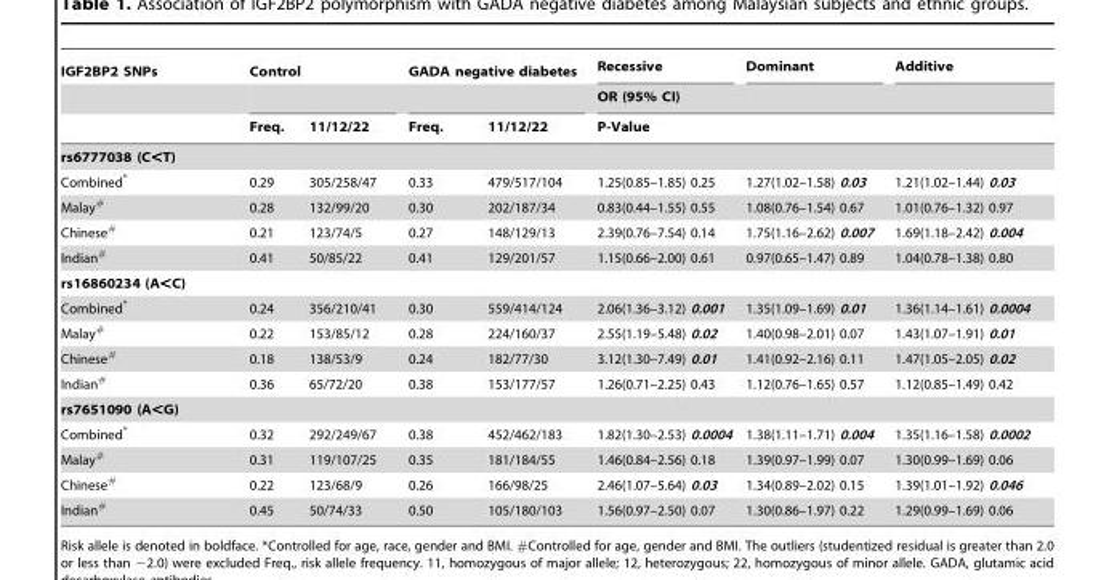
<table><thead><tr><td rowspan="3">IGF2BP2 SNPs</td><td colspan="2">Control</td><td colspan="2">GADA negative diabetes</td><td>Recessive</td><td>Dominant</td><td>Additive</td></tr><tr><td rowspan="2">Freq.</td><td rowspan="2">11/12/22</td><td rowspan="2">Freq.</td><td rowspan="2">11/12/22</td><td rowspan="2" colspan="3">OR (95% CI) P-Value</td></tr><tr></tr></thead><tbody><tr><td colspan="8">rs6777038 (C&lt;T)</td></tr><tr><td>Combined*</td><td>0.29</td><td>305/258/47</td><td>0.33</td><td>479/517/104</td><td>1.25(0.85–1.85) 0.25</td><td>1.27(1.02–1.58) 0.03</td><td>1.21(1.02–1.44) 0.03</td></tr><tr><td>Malay<sup>#</sup></td><td>0.28</td><td>132/99/20</td><td>0.30</td><td>202/187/34</td><td>0.83(0.44–1.55) 0.55</td><td>1.08(0.76–1.54) 0.67</td><td>1.01(0.76–1.32) 0.97</td></tr><tr><td>Chinese<sup>#</sup></td><td>0.21</td><td>123/74/5</td><td>0.27</td><td>148/129/13</td><td>2.39(0.76–7.54) 0.14</td><td>1.75(1.16–2.62) 0.007</td><td>1.69(1.18–2.42) 0.004</td></tr><tr><td>Indian<sup>#</sup></td><td>0.41</td><td>50/85/22</td><td>0.41</td><td>129/201/57</td><td>1.15(0.66–2.00) 0.61</td><td>0.97(0.65–1.47) 0.89</td><td>1.04(0.78–1.38) 0.80</td></tr><tr><td colspan="8">rs16860234 (A&lt;C)</td></tr><tr><td>Combined*</td><td>0.24</td><td>356/210/41</td><td>0.30</td><td>559/414/124</td><td>2.06(1.36–3.12) 0.001</td><td>1.35(1.09–1.69) 0.01</td><td>1.36(1.14–1.61) 0.0004</td></tr><tr><td>Malay<sup>#</sup></td><td>0.22</td><td>153/85/12</td><td>0.28</td><td>224/160/37</td><td>2.55(1.19–5.48) 0.02</td><td>1.40(0.98–2.01) 0.07</td><td>1.43(1.07–1.91) 0.01</td></tr><tr><td>Chinese<sup>#</sup></td><td>0.18</td><td>138/53/9</td><td>0.24</td><td>182/77/30</td><td>3.12(1.30–7.49) 0.01</td><td>1.41(0.92–2.16) 0.11</td><td>1.47(1.05–2.05) 0.02</td></tr><tr><td>Indian<sup>#</sup></td><td>0.36</td><td>65/72/20</td><td>0.38</td><td>153/177/57</td><td>1.26(0.71–2.25) 0.43</td><td>1.12(0.76–1.65) 0.57</td><td>1.12(0.85–1.49) 0.42</td></tr><tr><td colspan="8">rs7651090 (A&lt;G)</td></tr><tr><td>Combined*</td><td>0.32</td><td>292/249/67</td><td>0.38</td><td>452/462/183</td><td>1.82(1.30–2.53) 0.0004</td><td>1.38(1.11–1.71) 0.004</td><td>1.35(1.16–1.58) 0.0002</td></tr><tr><td>Malay<sup>#</sup></td><td>0.31</td><td>119/107/25</td><td>0.35</td><td>181/184/55</td><td>1.46(0.84–2.56) 0.18</td><td>1.39(0.97–1.99) 0.07</td><td>1.30(0.99–1.69) 0.06</td></tr><tr><td>Chinese<sup>#</sup></td><td>0.22</td><td>123/68/9</td><td>0.26</td><td>166/98/25</td><td>2.46(1.07–5.64) 0.03</td><td>1.34(0.89–2.02) 0.15</td><td>1.39(1.01–1.92) 0.046</td></tr><tr><td>Indian<sup>#</sup></td><td>0.45</td><td>50/74/33</td><td>0.50</td><td>105/180/103</td><td>1.56(0.97–2.50) 0.07</td><td>1.30(0.86–1.97) 0.22</td><td>1.29(0.99–1.69) 0.06</td></tr></tbody></table>